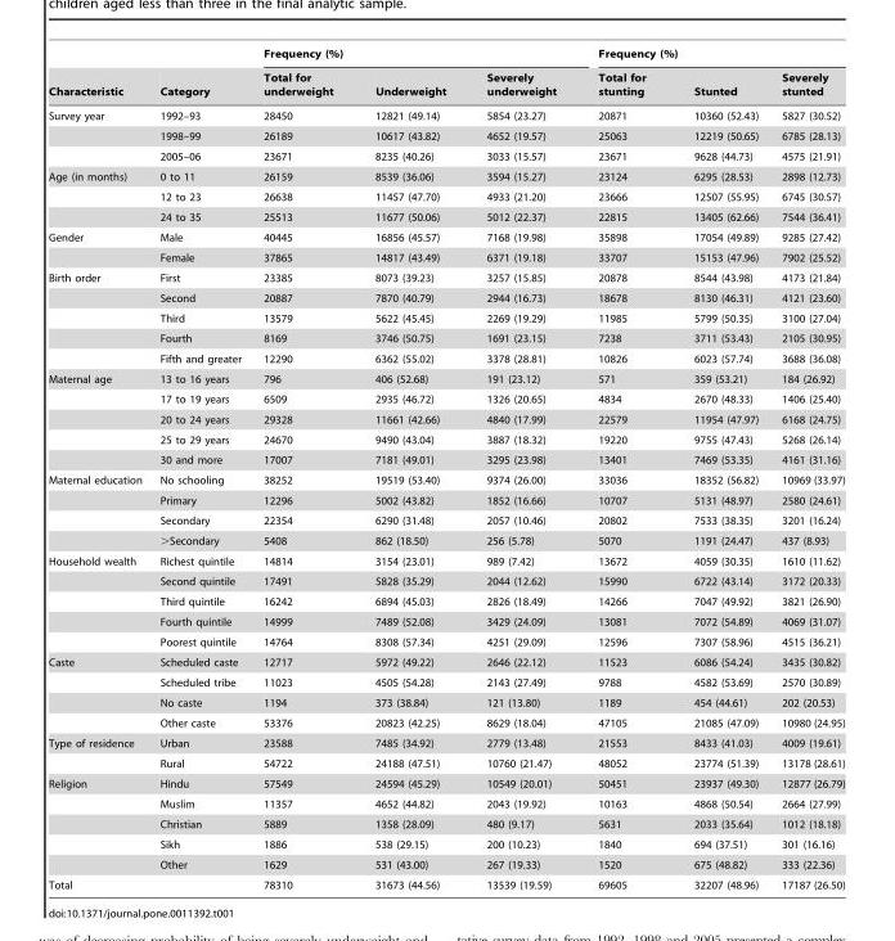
<table><thead><tr><td rowspan="2">Characteristic</td><td rowspan="2">Category</td><td colspan="3">Frequency (%)</td><td colspan="3">Frequency (%)</td></tr><tr><td>Total for underweight</td><td>Underweight</td><td>Severely underweight</td><td>Total for stunting</td><td>Stunted</td><td>Severely stunted</td></tr></thead><tbody><tr><td rowspan="3">Survey year</td><td>1992–93</td><td>28450</td><td>12821 (49.14)</td><td>5854 (23.27)</td><td>20871</td><td>10360 (52.43)</td><td>5827 (30.52)</td></tr><tr><td>1998–99</td><td>26189</td><td>10617 (43.82)</td><td>4652 (19.57)</td><td>25063</td><td>12219 (50.65)</td><td>6785 (28.13)</td></tr><tr><td>2005–06</td><td>23671</td><td>8235 (40.26)</td><td>3033 (15.57)</td><td>23671</td><td>9628 (44.73)</td><td>4575 (21.91)</td></tr><tr><td rowspan="3">Age (in months)</td><td>0 to 11</td><td>26159</td><td>8539 (36.06)</td><td>3594 (15.27)</td><td>23124</td><td>6295 (28.53)</td><td>2898 (12.73)</td></tr><tr><td>12 to 23</td><td>26638</td><td>11457 (47.70)</td><td>4933 (21.20)</td><td>23666</td><td>12507 (55.95)</td><td>6745 (30.57)</td></tr><tr><td>24 to 35</td><td>25513</td><td>11677 (50.06)</td><td>5012 (22.37)</td><td>22815</td><td>13405 (62.66)</td><td>7544 (36.41)</td></tr><tr><td rowspan="2">Gender</td><td>Male</td><td>40445</td><td>16856 (45.57)</td><td>7168 (19.98)</td><td>35898</td><td>17054 (49.89)</td><td>9285 (27.42)</td></tr><tr><td>Female</td><td>37865</td><td>14817 (43.49)</td><td>6371 (19.18)</td><td>33707</td><td>15153 (47.96)</td><td>7902 (25.52)</td></tr><tr><td rowspan="5">Birth order</td><td>First</td><td>23385</td><td>8073 (39.23)</td><td>3257 (15.85)</td><td>20878</td><td>8544 (43.98)</td><td>4173 (21.84)</td></tr><tr><td>Second</td><td>20887</td><td>7870 (40.79)</td><td>2944 (16.73)</td><td>18678</td><td>8130 (46.31)</td><td>4121 (23.60)</td></tr><tr><td>Third</td><td>13579</td><td>5622 (45.45)</td><td>2269 (19.29)</td><td>11985</td><td>5799 (50.35)</td><td>3100 (27.04)</td></tr><tr><td>Fourth</td><td>8169</td><td>3746 (50.75)</td><td>1691 (23.15)</td><td>7238</td><td>3711 (53.43)</td><td>2105 (30.95)</td></tr><tr><td>Fifth and greater</td><td>12290</td><td>6362 (55.02)</td><td>3378 (28.81)</td><td>10826</td><td>6023 (57.74)</td><td>3688 (36.08)</td></tr><tr><td rowspan="5">Maternal age</td><td>13 to 16 years</td><td>796</td><td>406 (52.68)</td><td>191 (23.12)</td><td>571</td><td>359 (53.21)</td><td>184 (26.92)</td></tr><tr><td>17 to 19 years</td><td>6509</td><td>2935 (46.72)</td><td>1326 (20.65)</td><td>4834</td><td>2670 (48.33)</td><td>1406 (25.40)</td></tr><tr><td>20 to 24 years</td><td>29328</td><td>11661 (42.66)</td><td>4840 (17.99)</td><td>22579</td><td>11954 (47.97)</td><td>6168 (24.75)</td></tr><tr><td>25 to 29 years</td><td>24670</td><td>9490 (43.04)</td><td>3887 (18.32)</td><td>19220</td><td>9755 (47.43)</td><td>5268 (26.14)</td></tr><tr><td>30 and more</td><td>17007</td><td>7181 (49.01)</td><td>3295 (23.98)</td><td>13401</td><td>7469 (53.35)</td><td>4161 (31.16)</td></tr><tr><td rowspan="4">Maternal education</td><td>No schooling</td><td>38252</td><td>19519 (53.40)</td><td>9374 (26.00)</td><td>33036</td><td>18352 (56.82)</td><td>10969 (33.97)</td></tr><tr><td>Primary</td><td>12296</td><td>5002 (43.82)</td><td>1852 (16.66)</td><td>10707</td><td>5131 (48.97)</td><td>2580 (24.61)</td></tr><tr><td>Secondary</td><td>22354</td><td>6290 (31.48)</td><td>2057 (10.46)</td><td>20802</td><td>7533 (38.35)</td><td>3201 (16.24)</td></tr><tr><td>&gt;Secondary</td><td>5408</td><td>862 (18.50)</td><td>256 (5.78)</td><td>5070</td><td>1191 (24.47)</td><td>437 (8.93)</td></tr><tr><td rowspan="5">Household wealth</td><td>Richest quintile</td><td>14814</td><td>3154 (23.01)</td><td>989 (7.42)</td><td>13672</td><td>4059 (30.35)</td><td>1610 (11.62)</td></tr><tr><td>Second quintile</td><td>17491</td><td>5828 (35.29)</td><td>2044 (12.62)</td><td>15990</td><td>6722 (43.14)</td><td>3172 (20.33)</td></tr><tr><td>Third quintile</td><td>16242</td><td>6894 (45.03)</td><td>2826 (18.49)</td><td>14266</td><td>7047 (49.92)</td><td>3821 (26.90)</td></tr><tr><td>Fourth quintile</td><td>14999</td><td>7489 (52.08)</td><td>3429 (24.09)</td><td>13081</td><td>7072 (54.89)</td><td>4069 (31.07)</td></tr><tr><td>Poorest quintile</td><td>14764</td><td>8308 (57.34)</td><td>4251 (29.09)</td><td>12596</td><td>7307 (58.96)</td><td>4515 (36.21)</td></tr><tr><td rowspan="4">Caste</td><td>Scheduled caste</td><td>12717</td><td>5972 (49.22)</td><td>2646 (22.12)</td><td>11523</td><td>6086 (54.24)</td><td>3435 (30.82)</td></tr><tr><td>Scheduled tribe</td><td>11023</td><td>4505 (54.28)</td><td>2143 (27.49)</td><td>9788</td><td>4582 (53.69)</td><td>2570 (30.89)</td></tr><tr><td>No caste</td><td>1194</td><td>373 (38.84)</td><td>121 (13.80)</td><td>1189</td><td>454 (44.61)</td><td>202 (20.53)</td></tr><tr><td>Other caste</td><td>53376</td><td>20823 (42.25)</td><td>8629 (18.04)</td><td>47105</td><td>21085 (47.09)</td><td>10980 (24.95)</td></tr><tr><td rowspan="2">Type of residence</td><td>Urban</td><td>23588</td><td>7485 (34.92)</td><td>2779 (13.48)</td><td>21553</td><td>8433 (41.03)</td><td>4009 (19.61)</td></tr><tr><td>Rural</td><td>54722</td><td>24188 (47.51)</td><td>10760 (21.47)</td><td>48052</td><td>23774 (51.39)</td><td>13178 (28.61)</td></tr><tr><td rowspan="5">Religion</td><td>Hindu</td><td>57549</td><td>24594 (45.29)</td><td>10549 (20.01)</td><td>50451</td><td>23937 (49.30)</td><td>12877 (26.79)</td></tr><tr><td>Muslim</td><td>11357</td><td>4652 (44.82)</td><td>2043 (19.92)</td><td>10163</td><td>4868 (50.54)</td><td>2664 (27.99)</td></tr><tr><td>Christian</td><td>5889</td><td>1358 (28.09)</td><td>480 (9.17)</td><td>5631</td><td>2033 (35.64)</td><td>1012 (18.18)</td></tr><tr><td>Sikh</td><td>1886</td><td>538 (29.15)</td><td>200 (10.23)</td><td>1840</td><td>694 (37.51)</td><td>301 (16.16)</td></tr><tr><td>Other</td><td>1629</td><td>531 (43.00)</td><td>267 (19.33)</td><td>1520</td><td>675 (48.82)</td><td>333 (22.36)</td></tr><tr><td>Total</td><td></td><td>78310</td><td>31673 (44.56)</td><td>13539 (19.59)</td><td>69605</td><td>32207 (48.96)</td><td>17187 (26.50)</td></tr></tbody></table>